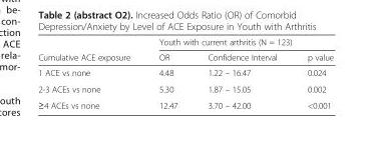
<table><thead><tr><td rowspan="2">Cumulative ACE exposure</td><td colspan="3">Youth with current arthritis (N = 123)</td></tr><tr><td>OR</td><td>Confidence Interval</td><td>p value</td></tr></thead><tbody><tr><td>1 ACE vs none</td><td>4.48</td><td>1.22 – 16.47</td><td>0.024</td></tr><tr><td>2-3 ACEs vs none</td><td>5.30</td><td>1.87 – 15.05</td><td>0.002</td></tr><tr><td>≥4 ACEs vs none</td><td>12.47</td><td>3.70 – 42.00</td><td>&lt;0.001</td></tr></tbody></table>